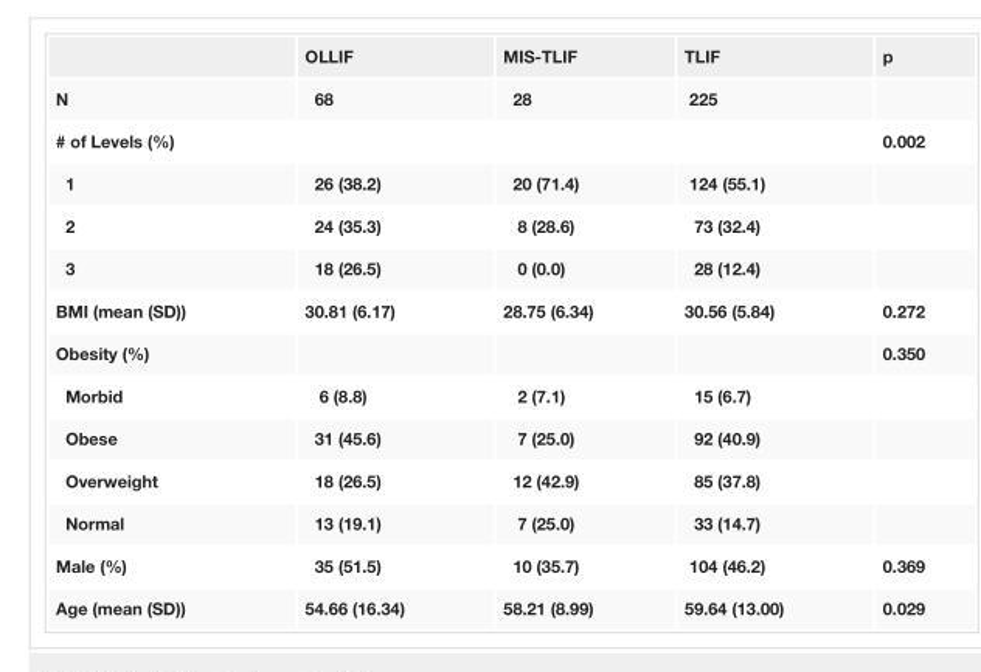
<table><thead><tr><td></td><td>OLLIF</td><td>MIS-TLIF</td><td>TLIF</td><td>p</td></tr></thead><tbody><tr><td>N</td><td>68</td><td>28</td><td>225</td><td></td></tr><tr><td># of Levels (%)</td><td></td><td></td><td></td><td>0.002</td></tr><tr><td>1</td><td>26 (38.2)</td><td>20 (71.4)</td><td>124 (55.1)</td><td></td></tr><tr><td>2</td><td>24 (35.3)</td><td>8 (28.6)</td><td>73 (32.4)</td><td></td></tr><tr><td>3</td><td>18 (26.5)</td><td>0 (0.0)</td><td>28 (12.4)</td><td></td></tr><tr><td>BMI (mean (SD))</td><td>30.81 (6.17)</td><td>28.75 (6.34)</td><td>30.56 (5.84)</td><td>0.272</td></tr><tr><td>Obesity (%)</td><td></td><td></td><td></td><td>0.350</td></tr><tr><td>Morbid</td><td>6 (8.8)</td><td>2 (7.1)</td><td>15 (6.7)</td><td></td></tr><tr><td>Obese</td><td>31 (45.6)</td><td>7 (25.0)</td><td>92 (40.9)</td><td></td></tr><tr><td>Overweight</td><td>18 (26.5)</td><td>12 (42.9)</td><td>85 (37.8)</td><td></td></tr><tr><td>Normal</td><td>13 (19.1)</td><td>7 (25.0)</td><td>33 (14.7)</td><td></td></tr><tr><td>Male (%)</td><td>35 (51.5)</td><td>10 (35.7)</td><td>104 (46.2)</td><td>0.369</td></tr><tr><td>Age (mean (SD))</td><td>54.66 (16.34)</td><td>58.21 (8.99)</td><td>59.64 (13.00)</td><td>0.029</td></tr></tbody></table>